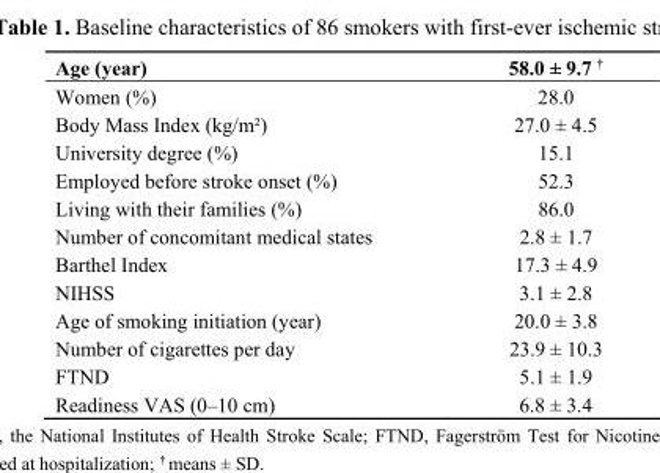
<table><thead><tr><td>Age (year)</td><td>58.0 ± 9.7 <sup>†</sup></td></tr></thead><tbody><tr><td>Women (%)</td><td>28.0</td></tr><tr><td>Body Mass Index (kg/m²)</td><td>27.0 ± 4.5</td></tr><tr><td>University degree (%)</td><td>15.1</td></tr><tr><td>Employed before stroke onset (%)</td><td>52.3</td></tr><tr><td>Living with their families (%)</td><td>86.0</td></tr><tr><td>Number of concomitant medical states</td><td>2.8 ± 1.7</td></tr><tr><td>Barthel Index</td><td>17.3 ± 4.9</td></tr><tr><td>NIHSS</td><td>3.1 ± 2.8</td></tr><tr><td>Age of smoking initiation (year)</td><td>20.0 ± 3.8</td></tr><tr><td>Number of cigarettes per day</td><td>23.9 ± 10.3</td></tr><tr><td>FTND</td><td>5.1 ± 1.9</td></tr><tr><td>Readiness VAS (0–10 cm)</td><td>6.8 ± 3.4</td></tr></tbody></table>